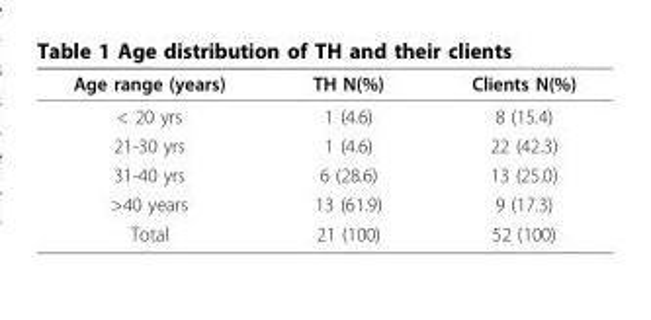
<table><thead><tr><td>Age range (years)</td><td>TH N(%)</td><td>Clients N(%)</td></tr></thead><tbody><tr><td>&lt; 20 yrs</td><td>1 (4.6)</td><td>8 (15.4)</td></tr><tr><td>21-30 yrs</td><td>1 (4.6)</td><td>22 (42.3)</td></tr><tr><td>31-40 yrs</td><td>6 (28.6)</td><td>13 (25.0)</td></tr><tr><td>&gt;40 years</td><td>13 (61.9)</td><td>9 (17.3)</td></tr><tr><td>Total</td><td>21 (100)</td><td>52 (100)</td></tr></tbody></table>